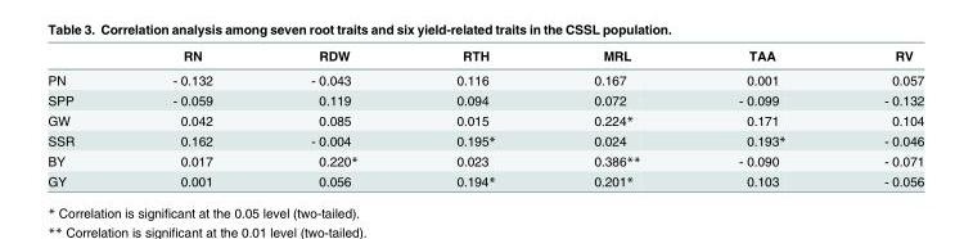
<table><thead><tr><td></td><td>RN</td><td>RDW</td><td>RTH</td><td>MRL</td><td>TAA</td><td>RV</td></tr></thead><tbody><tr><td>PN</td><td>- 0.132</td><td>- 0.043</td><td>0.116</td><td>0.167</td><td>0.001</td><td>0.057</td></tr><tr><td>SPP</td><td>- 0.059</td><td>0.119</td><td>0.094</td><td>0.072</td><td>- 0.099</td><td>- 0.132</td></tr><tr><td>GW</td><td>0.042</td><td>0.085</td><td>0.015</td><td>0.224*</td><td>0.171</td><td>0.104</td></tr><tr><td>SSR</td><td>0.162</td><td>- 0.004</td><td>0.195*</td><td>0.024</td><td>0.193*</td><td>- 0.046</td></tr><tr><td>BY</td><td>0.017</td><td>0.220*</td><td>0.023</td><td>0.386**</td><td>- 0.090</td><td>- 0.071</td></tr><tr><td>GY</td><td>0.001</td><td>0.056</td><td>0.194*</td><td>0.201*</td><td>0.103</td><td>- 0.056</td></tr></tbody></table>